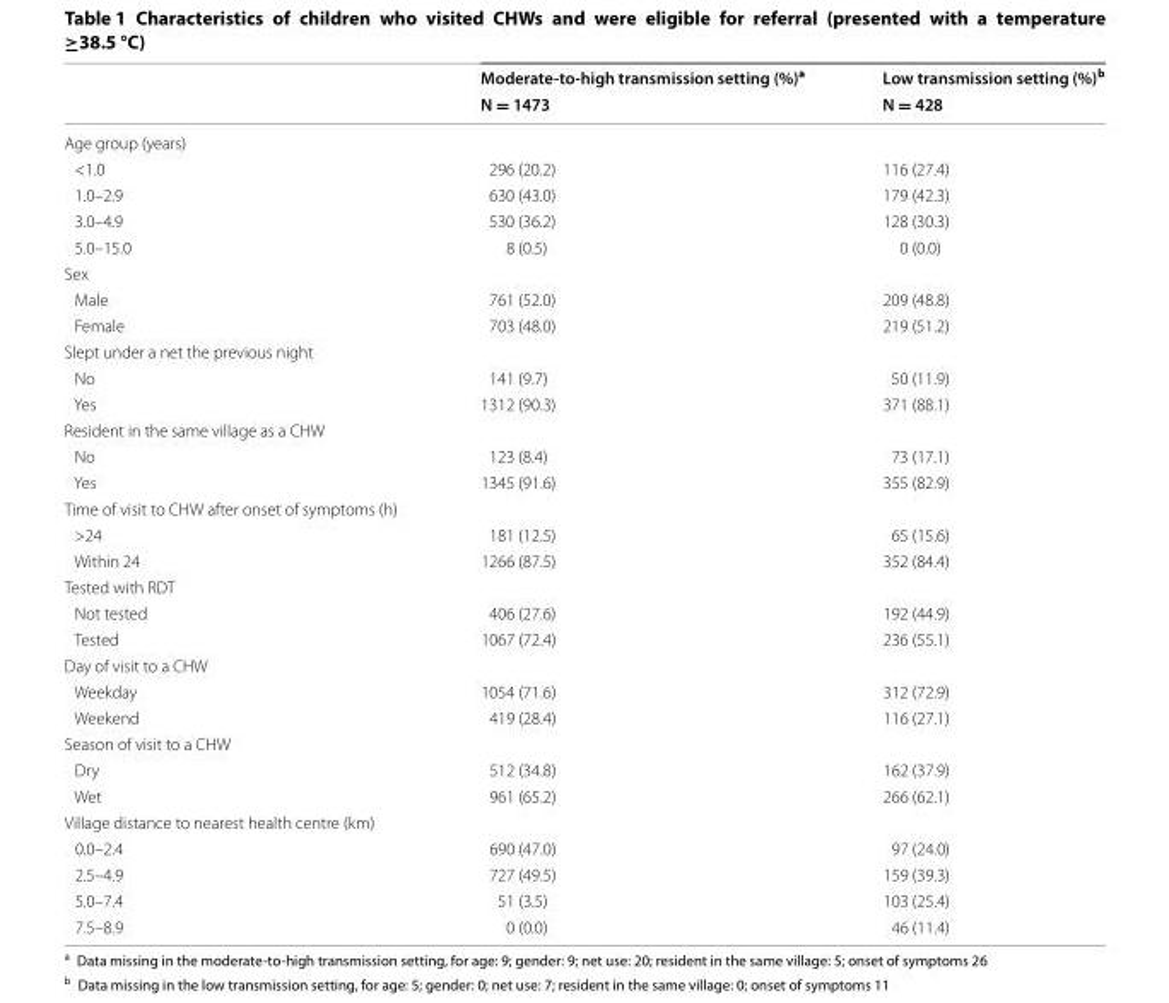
<table><thead><tr><td rowspan="2"></td><td rowspan="2">Moderate‑to‑high transmission setting (%)<sup>a</sup> N = 1473</td><td rowspan="2">Low transmission setting (%)<sup>b</sup> N = 428</td></tr><tr></tr></thead><tbody><tr><td colspan="3">Age group (years)</td></tr><tr><td>&lt;1.0</td><td>296 (20.2)</td><td>116 (27.4)</td></tr><tr><td>1.0–2.9</td><td>630 (43.0)</td><td>179 (42.3)</td></tr><tr><td>3.0–4.9</td><td>530 (36.2)</td><td>128 (30.3)</td></tr><tr><td>5.0–15.0</td><td>8 (0.5)</td><td>0 (0.0)</td></tr><tr><td colspan="3">Sex</td></tr><tr><td>Male</td><td>761 (52.0)</td><td>209 (48.8)</td></tr><tr><td>Female</td><td>703 (48.0)</td><td>219 (51.2)</td></tr><tr><td colspan="3">Slept under a net the previous night</td></tr><tr><td>No</td><td>141 (9.7)</td><td>50 (11.9)</td></tr><tr><td>Yes</td><td>1312 (90.3)</td><td>371 (88.1)</td></tr><tr><td colspan="3">Resident in the same village as a CHW</td></tr><tr><td>No</td><td>123 (8.4)</td><td>73 (17.1)</td></tr><tr><td>Yes</td><td>1345 (91.6)</td><td>355 (82.9)</td></tr><tr><td colspan="3">Time of visit to CHW after onset of symptoms (h)</td></tr><tr><td>&gt;24</td><td>181 (12.5)</td><td>65 (15.6)</td></tr><tr><td>Within 24</td><td>1266 (87.5)</td><td>352 (84.4)</td></tr><tr><td colspan="3">Tested with RDT</td></tr><tr><td>Not tested</td><td>406 (27.6)</td><td>192 (44.9)</td></tr><tr><td>Tested</td><td>1067 (72.4)</td><td>236 (55.1)</td></tr><tr><td colspan="3">Day of visit to a CHW</td></tr><tr><td>Weekday</td><td>1054 (71.6)</td><td>312 (72.9)</td></tr><tr><td>Weekend</td><td>419 (28.4)</td><td>116 (27.1)</td></tr><tr><td colspan="3">Season of visit to a CHW</td></tr><tr><td>Dry</td><td>512 (34.8)</td><td>162 (37.9)</td></tr><tr><td>Wet</td><td>961 (65.2)</td><td>266 (62.1)</td></tr><tr><td colspan="3">Village distance to nearest health centre (km)</td></tr><tr><td>0.0–2.4</td><td>690 (47.0)</td><td>97 (24.0)</td></tr><tr><td>2.5–4.9</td><td>727 (49.5)</td><td>159 (39.3)</td></tr><tr><td>5.0–7.4</td><td>51 (3.5)</td><td>103 (25.4)</td></tr><tr><td>7.5–8.9</td><td>0 (0.0)</td><td>46 (11.4)</td></tr></tbody></table>